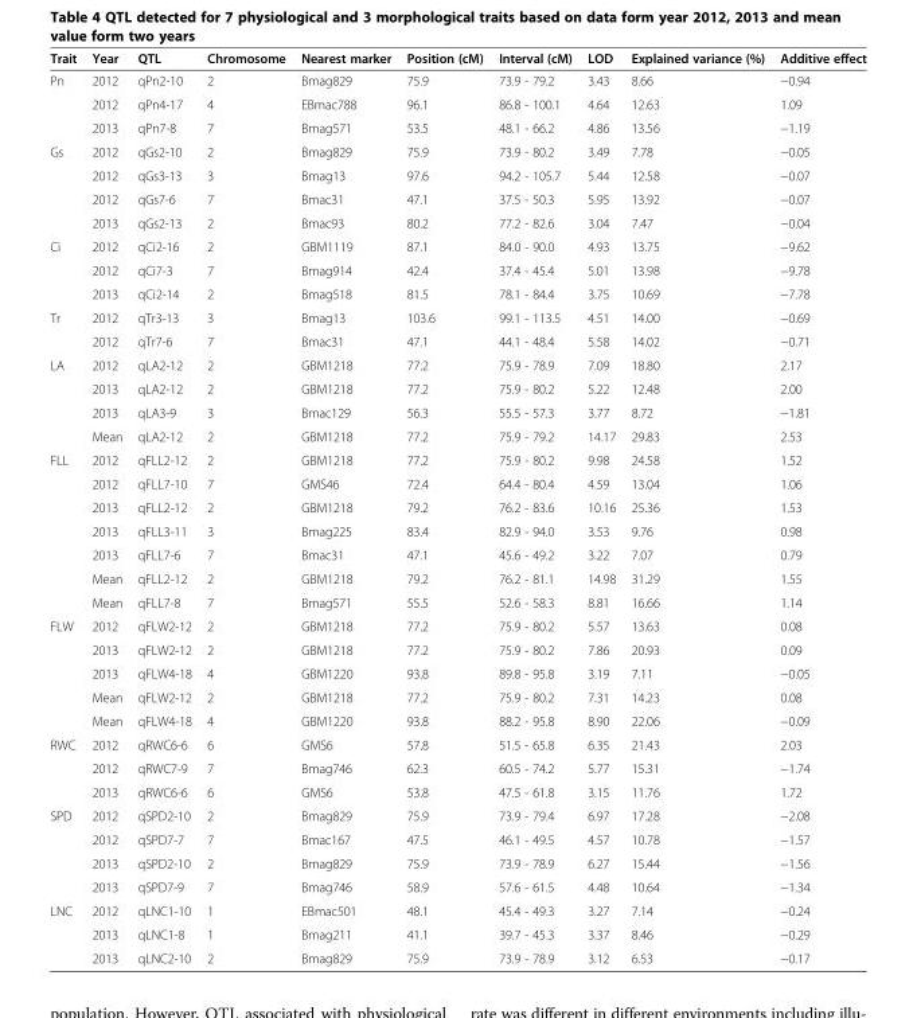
<table><thead><tr><td>Trait</td><td>Year</td><td>QTL</td><td>Chromosome</td><td>Nearest marker</td><td>Position (cM)</td><td>Interval (cM)</td><td>LOD</td><td>Explained variance (%)</td><td>Additive effect</td></tr></thead><tbody><tr><td rowspan="3">Pn</td><td>2012</td><td>qPn2-10</td><td>2</td><td>Bmag829</td><td>75.9</td><td>73.9 - 79.2</td><td>3.43</td><td>8.66</td><td>−0.94</td></tr><tr><td>2012</td><td>qPn4-17</td><td>4</td><td>EBmac788</td><td>96.1</td><td>86.8 - 100.1</td><td>4.64</td><td>12.63</td><td>1.09</td></tr><tr><td>2013</td><td>qPn7-8</td><td>7</td><td>Bmag571</td><td>53.5</td><td>48.1 - 66.2</td><td>4.86</td><td>13.56</td><td>−1.19</td></tr><tr><td rowspan="4">Gs</td><td>2012</td><td>qGs2-10</td><td>2</td><td>Bmag829</td><td>75.9</td><td>73.9 - 80.2</td><td>3.49</td><td>7.78</td><td>−0.05</td></tr><tr><td>2012</td><td>qGs3-13</td><td>3</td><td>Bmag13</td><td>97.6</td><td>94.2 - 105.7</td><td>5.44</td><td>12.58</td><td>−0.07</td></tr><tr><td>2012</td><td>qGs7-6</td><td>7</td><td>Bmac31</td><td>47.1</td><td>37.5 - 50.3</td><td>5.95</td><td>13.92</td><td>−0.07</td></tr><tr><td>2013</td><td>qGs2-13</td><td>2</td><td>Bmac93</td><td>80.2</td><td>77.2 - 82.6</td><td>3.04</td><td>7.47</td><td>−0.04</td></tr><tr><td rowspan="3">Ci</td><td>2012</td><td>qCi2-16</td><td>2</td><td>GBM1119</td><td>87.1</td><td>84.0 - 90.0</td><td>4.93</td><td>13.75</td><td>−9.62</td></tr><tr><td>2012</td><td>qCi7-3</td><td>7</td><td>Bmag914</td><td>42.4</td><td>37.4 - 45.4</td><td>5.01</td><td>13.98</td><td>−9.78</td></tr><tr><td>2013</td><td>qCi2-14</td><td>2</td><td>Bmag518</td><td>81.5</td><td>78.1 - 84.4</td><td>3.75</td><td>10.69</td><td>−7.78</td></tr><tr><td rowspan="2">Tr</td><td>2012</td><td>qTr3-13</td><td>3</td><td>Bmag13</td><td>103.6</td><td>99.1 - 113.5</td><td>4.51</td><td>14.00</td><td>−0.69</td></tr><tr><td>2012</td><td>qTr7-6</td><td>7</td><td>Bmac31</td><td>47.1</td><td>44.1 - 48.4</td><td>5.58</td><td>14.02</td><td>−0.71</td></tr><tr><td rowspan="4">LA</td><td>2012</td><td>qLA2-12</td><td>2</td><td>GBM1218</td><td>77.2</td><td>75.9 - 78.9</td><td>7.09</td><td>18.80</td><td>2.17</td></tr><tr><td>2013</td><td>qLA2-12</td><td>2</td><td>GBM1218</td><td>77.2</td><td>75.9 - 80.2</td><td>5.22</td><td>12.48</td><td>2.00</td></tr><tr><td>2013</td><td>qLA3-9</td><td>3</td><td>Bmac129</td><td>56.3</td><td>55.5 - 57.3</td><td>3.77</td><td>8.72</td><td>−1.81</td></tr><tr><td>Mean</td><td>qLA2-12</td><td>2</td><td>GBM1218</td><td>77.2</td><td>75.9 - 79.2</td><td>14.17</td><td>29.83</td><td>2.53</td></tr><tr><td rowspan="7">FLL</td><td>2012</td><td>qFLL2-12</td><td>2</td><td>GBM1218</td><td>77.2</td><td>75.9 - 80.2</td><td>9.98</td><td>24.58</td><td>1.52</td></tr><tr><td>2012</td><td>qFLL7-10</td><td>7</td><td>GMS46</td><td>72.4</td><td>64.4 - 80.4</td><td>4.59</td><td>13.04</td><td>1.06</td></tr><tr><td>2013</td><td>qFLL2-12</td><td>2</td><td>GBM1218</td><td>79.2</td><td>76.2 - 83.6</td><td>10.16</td><td>25.36</td><td>1.53</td></tr><tr><td>2013</td><td>qFLL3-11</td><td>3</td><td>Bmag225</td><td>83.4</td><td>82.9 - 94.0</td><td>3.53</td><td>9.76</td><td>0.98</td></tr><tr><td>2013</td><td>qFLL7-6</td><td>7</td><td>Bmac31</td><td>47.1</td><td>45.6 - 49.2</td><td>3.22</td><td>7.07</td><td>0.79</td></tr><tr><td>Mean</td><td>qFLL2-12</td><td>2</td><td>GBM1218</td><td>79.2</td><td>76.2 - 81.1</td><td>14.98</td><td>31.29</td><td>1.55</td></tr><tr><td>Mean</td><td>qFLL7-8</td><td>7</td><td>Bmag571</td><td>55.5</td><td>52.6 - 58.3</td><td>8.81</td><td>16.66</td><td>1.14</td></tr><tr><td rowspan="5">FLW</td><td>2012</td><td>qFLW2-12</td><td>2</td><td>GBM1218</td><td>77.2</td><td>75.9 - 80.2</td><td>5.57</td><td>13.63</td><td>0.08</td></tr><tr><td>2013</td><td>qFLW2-12</td><td>2</td><td>GBM1218</td><td>77.2</td><td>75.9 - 80.2</td><td>7.86</td><td>20.93</td><td>0.09</td></tr><tr><td>2013</td><td>qFLW4-18</td><td>4</td><td>GBM1220</td><td>93.8</td><td>89.8 - 95.8</td><td>3.19</td><td>7.11</td><td>−0.05</td></tr><tr><td>Mean</td><td>qFLW2-12</td><td>2</td><td>GBM1218</td><td>77.2</td><td>75.9 - 80.2</td><td>7.31</td><td>14.23</td><td>0.08</td></tr><tr><td>Mean</td><td>qFLW4-18</td><td>4</td><td>GBM1220</td><td>93.8</td><td>88.2 - 95.8</td><td>8.90</td><td>22.06</td><td>−0.09</td></tr><tr><td rowspan="3">RWC</td><td>2012</td><td>qRWC6-6</td><td>6</td><td>GMS6</td><td>57.8</td><td>51.5 - 65.8</td><td>6.35</td><td>21.43</td><td>2.03</td></tr><tr><td>2012</td><td>qRWC7-9</td><td>7</td><td>Bmag746</td><td>62.3</td><td>60.5 - 74.2</td><td>5.77</td><td>15.31</td><td>−1.74</td></tr><tr><td>2013</td><td>qRWC6-6</td><td>6</td><td>GMS6</td><td>53.8</td><td>47.5 - 61.8</td><td>3.15</td><td>11.76</td><td>1.72</td></tr><tr><td rowspan="4">SPD</td><td>2012</td><td>qSPD2-10</td><td>2</td><td>Bmag829</td><td>75.9</td><td>73.9 - 79.4</td><td>6.97</td><td>17.28</td><td>−2.08</td></tr><tr><td>2012</td><td>qSPD7-7</td><td>7</td><td>Bmac167</td><td>47.5</td><td>46.1 - 49.5</td><td>4.57</td><td>10.78</td><td>−1.57</td></tr><tr><td>2013</td><td>qSPD2-10</td><td>2</td><td>Bmag829</td><td>75.9</td><td>73.9 - 78.9</td><td>6.27</td><td>15.44</td><td>−1.56</td></tr><tr><td>2013</td><td>qSPD7-9</td><td>7</td><td>Bmag746</td><td>58.9</td><td>57.6 - 61.5</td><td>4.48</td><td>10.64</td><td>−1.34</td></tr><tr><td rowspan="3">LNC</td><td>2012</td><td>qLNC1-10</td><td>1</td><td>EBmac501</td><td>48.1</td><td>45.4 - 49.3</td><td>3.27</td><td>7.14</td><td>−0.24</td></tr><tr><td>2013</td><td>qLNC1-8</td><td>1</td><td>Bmag211</td><td>41.1</td><td>39.7 - 45.3</td><td>3.37</td><td>8.46</td><td>−0.29</td></tr><tr><td>2013</td><td>qLNC2-10</td><td>2</td><td>Bmag829</td><td>75.9</td><td>73.9 - 78.9</td><td>3.12</td><td>6.53</td><td>−0.17</td></tr></tbody></table>